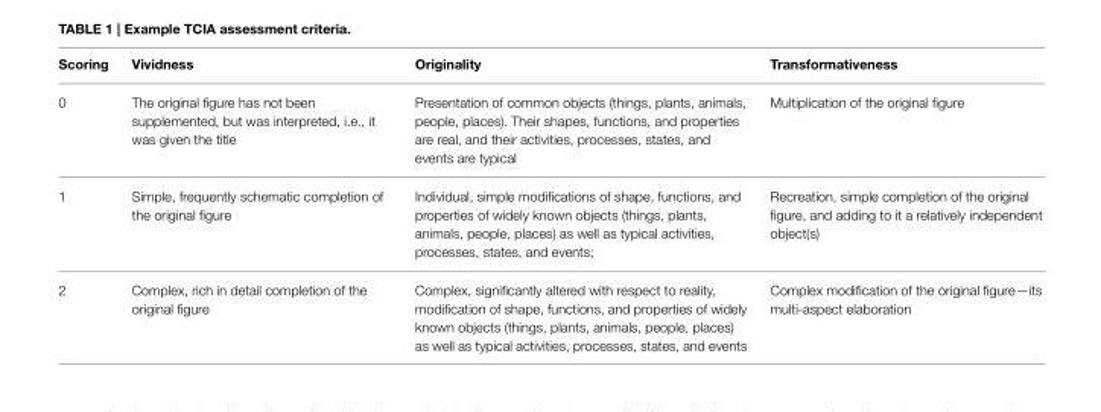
<table><thead><tr><td>Scoring</td><td>Vividness</td><td>Originality</td><td>Transformativeness</td></tr></thead><tbody><tr><td>0</td><td>The original figure has not been supplemented, but was interpreted, i.e., it was given the title</td><td>Presentation of common objects (things, plants, animals, people, places). Their shapes, functions, and properties are real, and their activities, processes, states, and events are typical</td><td>Multiplication of the original figure</td></tr><tr><td>1</td><td>Simple, frequently schematic completion of the original figure</td><td>Individual, simple modifications of shape, functions, and properties of widely known objects (things, plants, animals, people, places) as well as typical activities, processes, states, and events;</td><td>Recreation, simple completion of the original figure, and adding to it a relatively independent object(s)</td></tr><tr><td>2</td><td>Complex, rich in detail completion of the original figure</td><td>Complex, significantly altered with respect to reality, modification of shape, functions, and properties of widely known objects (things, plants, animals, people, places) as well as typical activities, processes, states, and events</td><td>Complex modification of the original figure—its multi-aspect elaboration</td></tr></tbody></table>